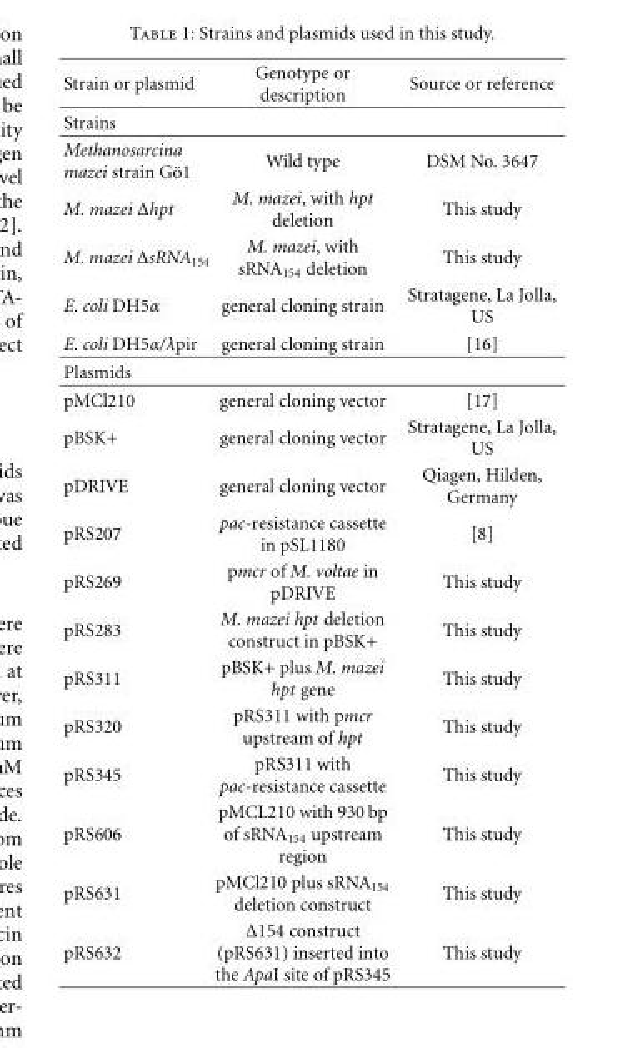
<table><thead><tr><td>Strain or plasmid</td><td>Genotype or description</td><td>Source or reference</td></tr></thead><tbody><tr><td colspan="3">Strains</td></tr><tr><td>Methanosarcina mazei strain G¨o1</td><td>Wild type</td><td>DSM No. 3647</td></tr><tr><td>M. mazei Δhpt</td><td>M. mazei, with hpt deletion</td><td>This study</td></tr><tr><td>M. mazei ΔsRNA<sub>154</sub></td><td>M. mazei, with sRNA<sub>154</sub> deletion</td><td>This study</td></tr><tr><td>E. coli DH5α</td><td>general cloning strain</td><td>Stratagene, La Jolla, US</td></tr><tr><td>E. coli DH5α/λpir</td><td>general cloning strain</td><td>[16]</td></tr><tr><td colspan="3">Plasmids</td></tr><tr><td>pMCl210</td><td>general cloning vector</td><td>[17]</td></tr><tr><td>pBSK+</td><td>general cloning vector</td><td>Stratagene, La Jolla, US</td></tr><tr><td>pDRIVE</td><td>general cloning vector</td><td>Qiagen, Hilden, Germany</td></tr><tr><td>pRS207</td><td>pac-resistance cassette in pSL1180</td><td>[8]</td></tr><tr><td>pRS269</td><td>pmcr of M. voltae in pDRIVE</td><td>This study</td></tr><tr><td>pRS283</td><td>M. mazei hpt deletion construct in pBSK+</td><td>This study</td></tr><tr><td>pRS311</td><td>pBSK+ plus M. mazei hpt gene</td><td>This study</td></tr><tr><td>pRS320</td><td>pRS311 with pmcr upstream of hpt</td><td>This study</td></tr><tr><td>pRS345</td><td>pRS311 with pac-resistance cassette</td><td>This study</td></tr><tr><td>pRS606</td><td>pMCL210 with 930 bp of sRNA<sub>154</sub> upstream region</td><td>This study</td></tr><tr><td>pRS631</td><td>pMCl210 plus sRNA<sub>154</sub> deletion construct</td><td>This study</td></tr><tr><td>pRS632</td><td>Δ154 construct (pRS631) inserted into the ApaI site of pRS345</td><td>This study</td></tr></tbody></table>